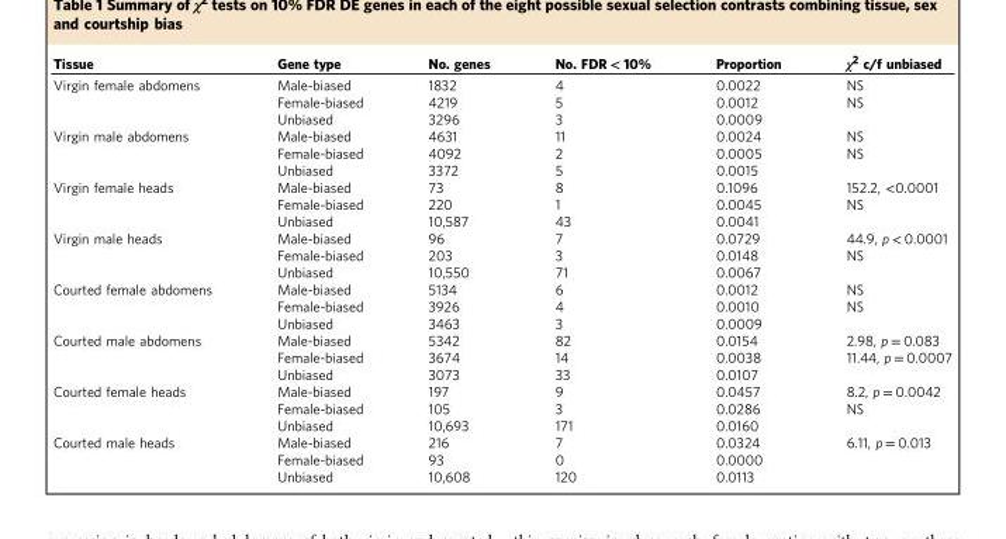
<table><thead><tr><td>Tissue</td><td>Gene type</td><td>No. genes</td><td>No. FDR &lt; 10%</td><td>Proportion</td><td>χ<sup>2</sup> c/f unbiased</td></tr></thead><tbody><tr><td rowspan="3">Virgin female abdomens</td><td>Male-biased</td><td>1832</td><td>4</td><td>0.0022</td><td>NS</td></tr><tr><td>Female-biased</td><td>4219</td><td>5</td><td>0.0012</td><td>NS</td></tr><tr><td>Unbiased</td><td>3296</td><td>3</td><td>0.0009</td><td></td></tr><tr><td rowspan="3">Virgin male abdomens</td><td>Male-biased</td><td>4631</td><td>11</td><td>0.0024</td><td>NS</td></tr><tr><td>Female-biased</td><td>4092</td><td>2</td><td>0.0005</td><td>NS</td></tr><tr><td>Unbiased</td><td>3372</td><td>5</td><td>0.0015</td><td></td></tr><tr><td rowspan="3">Virgin female heads</td><td>Male-biased</td><td>73</td><td>8</td><td>0.1096</td><td>152.2, &lt;0.0001</td></tr><tr><td>Female-biased</td><td>220</td><td>1</td><td>0.0045</td><td>NS</td></tr><tr><td>Unbiased</td><td>10,587</td><td>43</td><td>0.0041</td><td></td></tr><tr><td rowspan="3">Virgin male heads</td><td>Male-biased</td><td>96</td><td>7</td><td>0.0729</td><td>44.9, p &lt; 0.0001</td></tr><tr><td>Female-biased</td><td>203</td><td>3</td><td>0.0148</td><td>NS</td></tr><tr><td>Unbiased</td><td>10,550</td><td>71</td><td>0.0067</td><td></td></tr><tr><td rowspan="3">Courted female abdomens</td><td>Male-biased</td><td>5134</td><td>6</td><td>0.0012</td><td>NS</td></tr><tr><td>Female-biased</td><td>3926</td><td>4</td><td>0.0010</td><td>NS</td></tr><tr><td>Unbiased</td><td>3463</td><td>3</td><td>0.0009</td><td></td></tr><tr><td rowspan="3">Courted male abdomens</td><td>Male-biased</td><td>5342</td><td>82</td><td>0.0154</td><td>2.98, p = 0.083</td></tr><tr><td>Female-biased</td><td>3674</td><td>14</td><td>0.0038</td><td>11.44, p = 0.0007</td></tr><tr><td>Unbiased</td><td>3073</td><td>33</td><td>0.0107</td><td></td></tr><tr><td rowspan="3">Courted female heads</td><td>Male-biased</td><td>197</td><td>9</td><td>0.0457</td><td>8.2, p = 0.0042</td></tr><tr><td>Female-biased</td><td>105</td><td>3</td><td>0.0286</td><td>NS</td></tr><tr><td>Unbiased</td><td>10,693</td><td>171</td><td>0.0160</td><td></td></tr><tr><td rowspan="3">Courted male heads</td><td>Male-biased</td><td>216</td><td>7</td><td>0.0324</td><td>6.11, p = 0.013</td></tr><tr><td>Female-biased</td><td>93</td><td>0</td><td>0.0000</td><td></td></tr><tr><td>Unbiased</td><td>10,608</td><td>120</td><td>0.0113</td><td></td></tr></tbody></table>